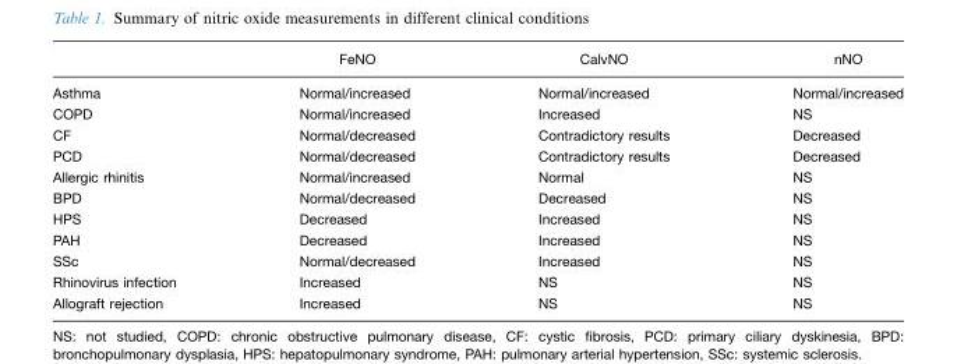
<table><thead><tr><td></td><td>FeNO</td><td>CalvNO</td><td>nNO</td></tr></thead><tbody><tr><td>Asthma</td><td>Normal/increased</td><td>Normal/increased</td><td>Normal/increased</td></tr><tr><td>COPD</td><td>Normal/increased</td><td>Increased</td><td>NS</td></tr><tr><td>CF</td><td>Normal/decreased</td><td>Contradictory results</td><td>Decreased</td></tr><tr><td>PCD</td><td>Normal/decreased</td><td>Contradictory results</td><td>Decreased</td></tr><tr><td>Allergic rhinitis</td><td>Normal/increased</td><td>Normal</td><td>NS</td></tr><tr><td>BPD</td><td>Normal/decreased</td><td>Decreased</td><td>NS</td></tr><tr><td>HPS</td><td>Decreased</td><td>Increased</td><td>NS</td></tr><tr><td>PAH</td><td>Decreased</td><td>Increased</td><td>NS</td></tr><tr><td>SSc</td><td>Normal/decreased</td><td>Increased</td><td>NS</td></tr><tr><td>Rhinovirus infection</td><td>Increased</td><td>NS</td><td>NS</td></tr><tr><td>Allograft rejection</td><td>Increased</td><td>NS</td><td>NS</td></tr></tbody></table>